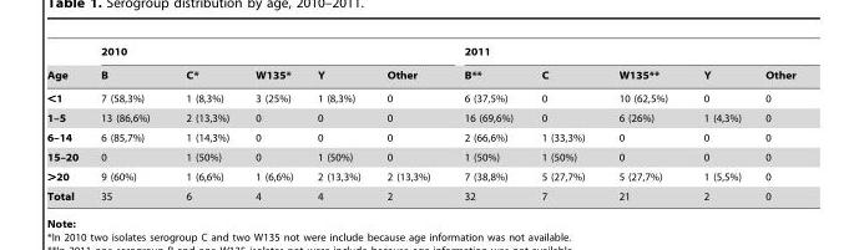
<table><thead><tr><td rowspan="2">Age</td><td colspan="5">2010</td><td colspan="5">2011</td></tr><tr><td>B</td><td>C*</td><td>W135*</td><td>Y</td><td>Other</td><td>B**</td><td>C</td><td>W135**</td><td>Y</td><td>Other</td></tr></thead><tbody><tr><td>&lt;1</td><td>7 (58,3%)</td><td>1 (8,3%)</td><td>3 (25%)</td><td>1 (8,3%)</td><td>0</td><td>6 (37,5%)</td><td>0</td><td>10 (62,5%)</td><td>0</td><td>0</td></tr><tr><td>1–5</td><td>13 (86,6%)</td><td>2 (13,3%)</td><td>0</td><td>0</td><td>0</td><td>16 (69,6%)</td><td>0</td><td>6 (26%)</td><td>1 (4,3%)</td><td>0</td></tr><tr><td>6–14</td><td>6 (85,7%)</td><td>1 (14,3%)</td><td>0</td><td>0</td><td>0</td><td>2 (66,6%)</td><td>1 (33,3%)</td><td>0</td><td>0</td><td>0</td></tr><tr><td>15–20</td><td>0</td><td>1 (50%)</td><td>0</td><td>1 (50%)</td><td>0</td><td>1 (50%)</td><td>1 (50%)</td><td>0</td><td>0</td><td>0</td></tr><tr><td>&gt;20</td><td>9 (60%)</td><td>1 (6,6%)</td><td>1 (6,6%)</td><td>2 (13,3%)</td><td>2 (13,3%)</td><td>7 (38,8%)</td><td>5 (27,7%)</td><td>5 (27,7%)</td><td>1 (5,5%)</td><td>0</td></tr><tr><td>Total</td><td>35</td><td>6</td><td>4</td><td>4</td><td>2</td><td>32</td><td>7</td><td>21</td><td>2</td><td>0</td></tr></tbody></table>